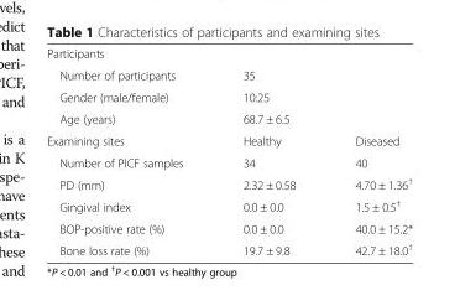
<table><tbody><tr><td colspan="3">Participants</td></tr><tr><td>Number of participants</td><td>35</td><td></td></tr><tr><td>Gender (male/female)</td><td>10:25</td><td></td></tr><tr><td>Age (years)</td><td>68.7 ± 6.5</td><td></td></tr><tr><td>Examining sites</td><td>Healthy</td><td>Diseased</td></tr><tr><td>Number of PICF samples</td><td>34</td><td>40</td></tr><tr><td>PD (mm)</td><td>2.32 ± 0.58</td><td>4.70 ± 1.36<sup>†</sup></td></tr><tr><td>Gingival index</td><td>0.0 ± 0.0</td><td>1.5 ± 0.5<sup>†</sup></td></tr><tr><td>BOP-positive rate (%)</td><td>0.0 ± 0.0</td><td>40.0 ± 15.2*</td></tr><tr><td>Bone loss rate (%)</td><td>19.7 ± 9.8</td><td>42.7 ± 18.0<sup>†</sup></td></tr></tbody></table>